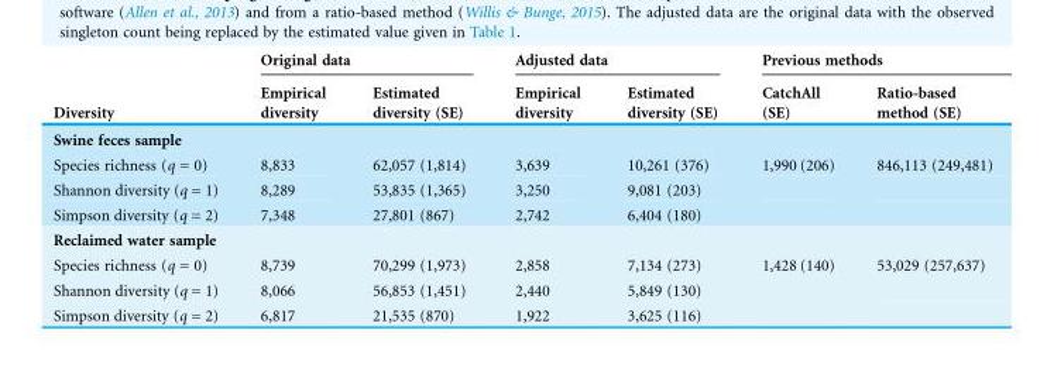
<table><thead><tr><td rowspan="2">Diversity</td><td colspan="2">Original data</td><td colspan="2">Adjusted data</td><td colspan="2">Previous methods</td></tr><tr><td>Empirical diversity</td><td>Estimated diversity (SE)</td><td>Empirical diversity</td><td>Estimated diversity (SE)</td><td>CatchAll (SE)</td><td>Ratio-based method (SE)</td></tr></thead><tbody><tr><td colspan="7">Swine feces sample</td></tr><tr><td>Species richness (q = 0)</td><td>8,833</td><td>62,057 (1,814)</td><td>3,639</td><td>10,261 (376)</td><td>1,990 (206)</td><td>846,113 (249,481)</td></tr><tr><td>Shannon diversity (q = 1)</td><td>8,289</td><td>53,835 (1,365)</td><td>3,250</td><td>9,081 (203)</td><td></td><td></td></tr><tr><td>Simpson diversity (q = 2)</td><td>7,348</td><td>27,801 (867)</td><td>2,742</td><td>6,404 (180)</td><td></td><td></td></tr><tr><td colspan="7">Reclaimed water sample</td></tr><tr><td>Species richness (q = 0)</td><td>8,739</td><td>70,299 (1,973)</td><td>2,858</td><td>7,134 (273)</td><td>1,428 (140)</td><td>53,029 (257,637)</td></tr><tr><td>Shannon diversity (q = 1)</td><td>8,066</td><td>56,853 (1,451)</td><td>2,440</td><td>5,849 (130)</td><td></td><td></td></tr><tr><td>Simpson diversity (q = 2)</td><td>6,817</td><td>21,535 (870)</td><td>1,922</td><td>3,625 (116)</td><td></td><td></td></tr></tbody></table>